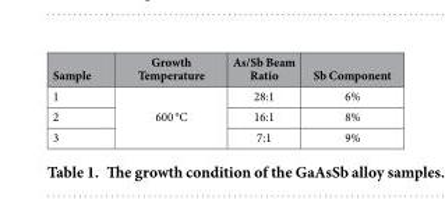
<table><thead><tr><td>Sample</td><td>Growth Temperature</td><td>As/Sb Beam Ratio</td><td>Sb Component</td></tr></thead><tbody><tr><td>1</td><td rowspan="3">600 °C</td><td>28:1</td><td>6%</td></tr><tr><td>2</td><td>16:1</td><td>8%</td></tr><tr><td>3</td><td>7:1</td><td>9%</td></tr></tbody></table>